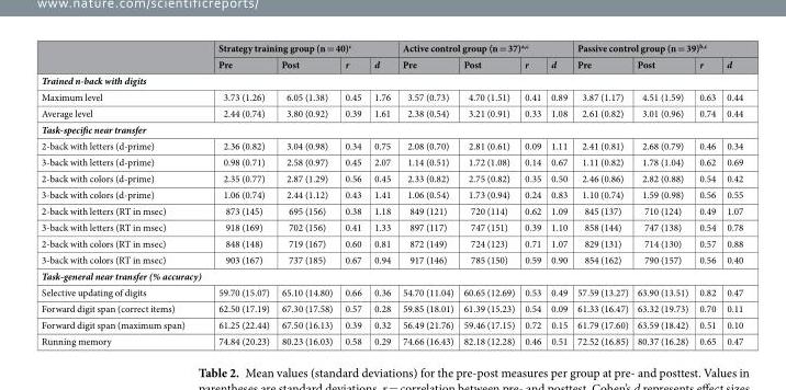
<table><thead><tr><td rowspan="2"></td><td colspan="4">Strategy training group (n = 40)<sup>c</sup></td><td colspan="4">Active control group (n = 37)<sup>a,c</sup></td><td colspan="4">Passive control group (n = 39)<sup>b,c</sup></td></tr><tr><td>Pre</td><td>Post</td><td>r</td><td>d</td><td>Pre</td><td>Post</td><td>r</td><td>d</td><td>Pre</td><td>Post</td><td>r</td><td>d</td></tr></thead><tbody><tr><td colspan="13">Trained n-back with digits</td></tr><tr><td>Maximum level</td><td>3.73 (1.26)</td><td>6.05 (1.38)</td><td>0.45</td><td>1.76</td><td>3.57 (0.73)</td><td>4.70 (1.51)</td><td>0.41</td><td>0.89</td><td>3.87 (1.17)</td><td>4.51 (1.59)</td><td>0.63</td><td>0.44</td></tr><tr><td>Average level</td><td>2.44 (0.74)</td><td>3.80 (0.92)</td><td>0.39</td><td>1.61</td><td>2.38 (0.54)</td><td>3.21 (0.91)</td><td>0.33</td><td>1.08</td><td>2.61 (0.82)</td><td>3.01 (0.96)</td><td>0.74</td><td>0.44</td></tr><tr><td colspan="13">Task-specific near transfer</td></tr><tr><td>2-back with letters (d-prime)</td><td>2.36 (0.82)</td><td>3.04 (0.98)</td><td>0.34</td><td>0.75</td><td>2.08 (0.70)</td><td>2.81 (0.61)</td><td>0.09</td><td>1.11</td><td>2.41 (0.81)</td><td>2.68 (0.79)</td><td>0.46</td><td>0.34</td></tr><tr><td>3-back with letters (d-prime)</td><td>0.98 (0.71)</td><td>2.58 (0.97)</td><td>0.45</td><td>2.07</td><td>1.14 (0.51)</td><td>1.72 (1.08)</td><td>0.14</td><td>0.67</td><td>1.11 (0.82)</td><td>1.78 (1.04)</td><td>0.62</td><td>0.69</td></tr><tr><td>2-back with colors (d-prime)</td><td>2.35 (0.77)</td><td>2.87 (1.29)</td><td>0.56</td><td>0.45</td><td>2.33 (0.82)</td><td>2.75 (0.82)</td><td>0.35</td><td>0.50</td><td>2.46 (0.86)</td><td>2.82 (0.88)</td><td>0.54</td><td>0.42</td></tr><tr><td>3-back with colors (d-prime)</td><td>1.06 (0.74)</td><td>2.44 (1.12)</td><td>0.43</td><td>1.41</td><td>1.06 (0.54)</td><td>1.73 (0.94)</td><td>0.24</td><td>0.83</td><td>1.10 (0.74)</td><td>1.59 (0.98)</td><td>0.56</td><td>0.55</td></tr><tr><td>2-back with letters (RT in msec)</td><td>873 (145)</td><td>695 (156)</td><td>0.38</td><td>1.18</td><td>849 (121)</td><td>720 (114)</td><td>0.62</td><td>1.09</td><td>845 (137)</td><td>710 (124)</td><td>0.49</td><td>1.07</td></tr><tr><td>3-back with letters (RT in msec)</td><td>918 (169)</td><td>702 (156)</td><td>0.41</td><td>1.33</td><td>897 (117)</td><td>747 (151)</td><td>0.39</td><td>1.10</td><td>858 (144)</td><td>747 (138)</td><td>0.54</td><td>0.78</td></tr><tr><td>2-back with colors (RT in msec)</td><td>848 (148)</td><td>719 (167)</td><td>0.60</td><td>0.81</td><td>872 (149)</td><td>724 (123)</td><td>0.71</td><td>1.07</td><td>829 (131)</td><td>714 (130)</td><td>0.57</td><td>0.88</td></tr><tr><td>3-back with colors (RT in msec)</td><td>903 (167)</td><td>737 (185)</td><td>0.67</td><td>0.94</td><td>917 (146)</td><td>785 (150)</td><td>0.59</td><td>0.90</td><td>854 (162)</td><td>790 (157)</td><td>0.56</td><td>0.40</td></tr><tr><td colspan="13">Task-general near transfer (% accuracy)</td></tr><tr><td>Selective updating of digits</td><td>59.70 (15.07)</td><td>65.10 (14.80)</td><td>0.66</td><td>0.36</td><td>54.70 (11.04)</td><td>60.65 (12.69)</td><td>0.53</td><td>0.49</td><td>57.59 (13.27)</td><td>63.90 (13.51)</td><td>0.82</td><td>0.47</td></tr><tr><td>Forward digit span (correct items)</td><td>62.50 (17.19)</td><td>67.30 (17.58)</td><td>0.57</td><td>0.28</td><td>59.85 (18.01)</td><td>61.39 (15.23)</td><td>0.54</td><td>0.09</td><td>61.33 (16.47)</td><td>63.32 (19.73)</td><td>0.70</td><td>0.11</td></tr><tr><td>Forward digit span (maximum span)</td><td>61.25 (22.44)</td><td>67.50 (16.13)</td><td>0.39</td><td>0.32</td><td>56.49 (21.76)</td><td>59.46 (17.15)</td><td>0.72</td><td>0.15</td><td>61.79 (17.60)</td><td>63.59 (18.42)</td><td>0.51</td><td>0.10</td></tr><tr><td>Running memory</td><td>74.84 (20.23)</td><td>80.23 (16.03)</td><td>0.58</td><td>0.29</td><td>74.66 (16.43)</td><td>82.18 (12.28)</td><td>0.46</td><td>0.51</td><td>72.52 (16.85)</td><td>80.37 (16.28)</td><td>0.65</td><td>0.47</td></tr></tbody></table>